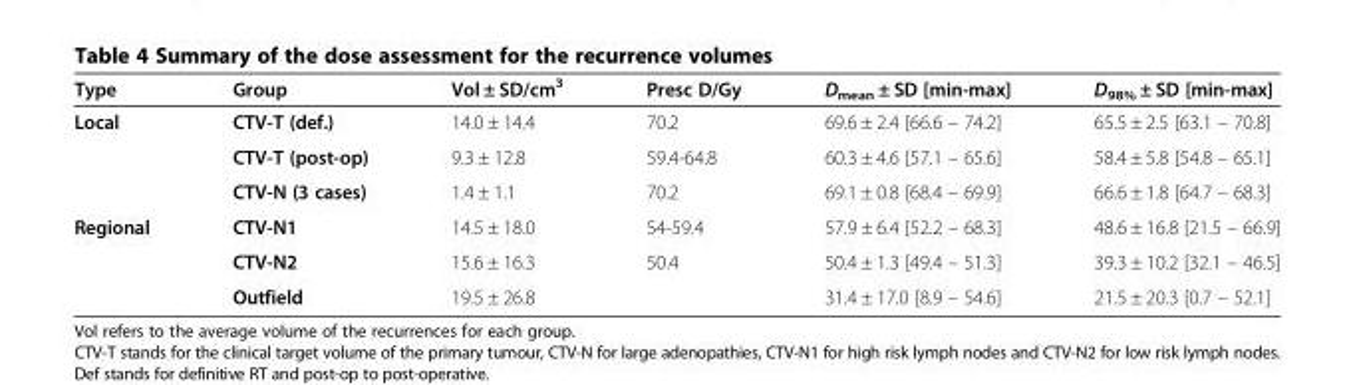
<table><thead><tr><td>Type</td><td>Group</td><td>Vol ± SD/cm<sup>3</sup></td><td>Presc D/Gy</td><td>D<sub>mean</sub> ± SD [min-max]</td><td>D<sub>98%</sub> ± SD [min-max]</td></tr></thead><tbody><tr><td rowspan="3">Local</td><td>CTV-T (def.)</td><td>14.0 ± 14.4</td><td>70.2</td><td>69.6 ± 2.4 [66.6 – 74.2]</td><td>65.5 ± 2.5 [63.1 – 70.8]</td></tr><tr><td>CTV-T (post-op)</td><td>9.3 ± 12.8</td><td>59.4-64.8</td><td>60.3 ± 4.6 [57.1 – 65.6]</td><td>58.4 ± 5.8 [54.8 – 65.1]</td></tr><tr><td>CTV-N (3 cases)</td><td>1.4 ± 1.1</td><td>70.2</td><td>69.1 ± 0.8 [68.4 – 69.9]</td><td>66.6 ± 1.8 [64.7 – 68.3]</td></tr><tr><td rowspan="3">Regional</td><td>CTV-N1</td><td>14.5 ± 18.0</td><td>54-59.4</td><td>57.9 ± 6.4 [52.2 – 68.3]</td><td>48.6 ± 16.8 [21.5 – 66.9]</td></tr><tr><td>CTV-N2</td><td>15.6 ± 16.3</td><td>50.4</td><td>50.4 ± 1.3 [49.4 – 51.3]</td><td>39.3 ± 10.2 [32.1 – 46.5]</td></tr><tr><td>Outfield</td><td>19.5 ± 26.8</td><td></td><td>31.4 ± 17.0 [8.9 – 54.6]</td><td>21.5 ± 20.3 [0.7 – 52.1]</td></tr></tbody></table>